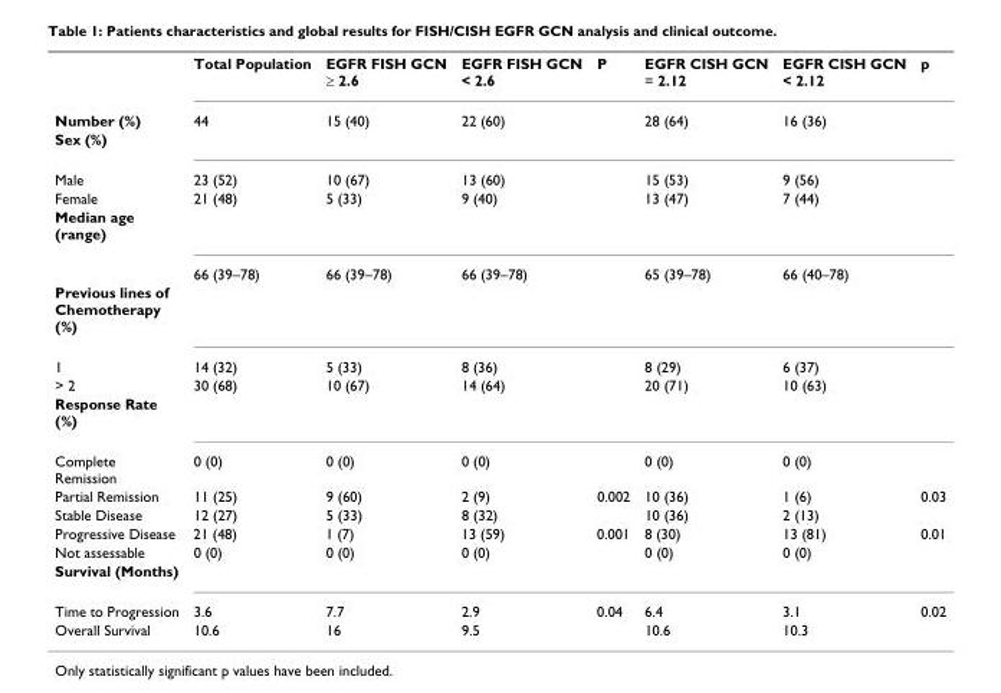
<table><thead><tr><td></td><td>Total Population</td><td>EGFR FISH GCN ≥ 2.6</td><td>EGFR FISH GCN &lt; 2.6</td><td>P</td><td>EGFR CISH GCN = 2.12</td><td>EGFR CISH GCN &lt; 2.12</td><td>p</td></tr></thead><tbody><tr><td>Number (%)</td><td>44</td><td>15 (40)</td><td>22 (60)</td><td></td><td>28 (64)</td><td>16 (36)</td><td></td></tr><tr><td colspan="8">Sex (%)</td></tr><tr><td>Male</td><td>23 (52)</td><td>10 (67)</td><td>13 (60)</td><td></td><td>15 (53)</td><td>9 (56)</td><td></td></tr><tr><td>Female</td><td>21 (48)</td><td>5 (33)</td><td>9 (40)</td><td></td><td>13 (47)</td><td>7 (44)</td><td></td></tr><tr><td colspan="8">Median age (range)</td></tr><tr><td></td><td>66 (39–78)</td><td>66 (39–78)</td><td>66 (39–78)</td><td></td><td>65 (39–78)</td><td>66 (40–78)</td><td></td></tr><tr><td colspan="8">Previous lines of Chemotherapy (%)</td></tr><tr><td>1</td><td>14 (32)</td><td>5 (33)</td><td>8 (36)</td><td></td><td>8 (29)</td><td>6 (37)</td><td></td></tr><tr><td>&gt; 2</td><td>30 (68)</td><td>10 (67)</td><td>14 (64)</td><td></td><td>20 (71)</td><td>10 (63)</td><td></td></tr><tr><td colspan="8">Response Rate (%)</td></tr><tr><td>Complete Remission</td><td>0 (0)</td><td>0 (0)</td><td>0 (0)</td><td></td><td>0 (0)</td><td>0 (0)</td><td></td></tr><tr><td>Partial Remission</td><td>11 (25)</td><td>9 (60)</td><td>2 (9)</td><td>0.002</td><td>10 (36)</td><td>1 (6)</td><td>0.03</td></tr><tr><td>Stable Disease</td><td>12 (27)</td><td>5 (33)</td><td>8 (32)</td><td></td><td>10 (36)</td><td>2 (13)</td><td></td></tr><tr><td>Progressive Disease</td><td>21 (48)</td><td>1 (7)</td><td>13 (59)</td><td>0.001</td><td>8 (30)</td><td>13 (81)</td><td>0.01</td></tr><tr><td>Not assessable</td><td>0 (0)</td><td>0 (0)</td><td>0 (0)</td><td></td><td>0 (0)</td><td>0 (0)</td><td></td></tr><tr><td colspan="8">Survival (Months)</td></tr><tr><td>Time to Progression</td><td>3.6</td><td>7.7</td><td>2.9</td><td>0.04</td><td>6.4</td><td>3.1</td><td>0.02</td></tr><tr><td>Overall Survival</td><td>10.6</td><td>16</td><td>9.5</td><td></td><td>10.6</td><td>10.3</td><td></td></tr></tbody></table>